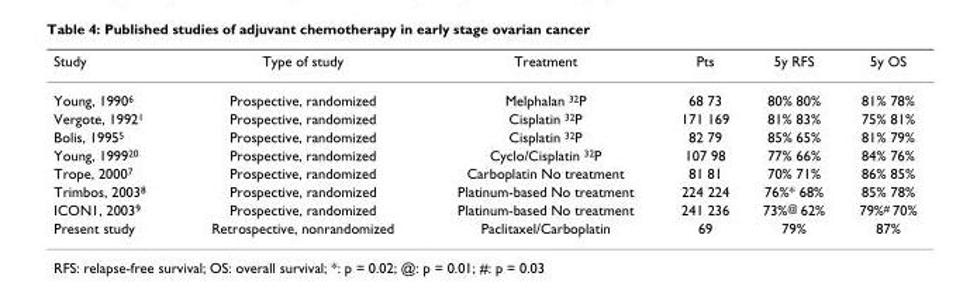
<table><thead><tr><td>Study</td><td>Type of study</td><td>Treatment</td><td>Pts</td><td>5y RFS</td><td>5y OS</td></tr></thead><tbody><tr><td>Young, 19906</td><td>Prospective, randomized</td><td>Melphalan 32P</td><td>68 73</td><td>80% 80%</td><td>81% 78%</td></tr><tr><td>Vergote, 19921</td><td>Prospective, randomized</td><td>Cisplatin 32P</td><td>171 169</td><td>81% 83%</td><td>75% 81%</td></tr><tr><td>Bolis, 19955</td><td>Prospective, randomized</td><td>Cisplatin 32P</td><td>82 79</td><td>85% 65%</td><td>81% 79%</td></tr><tr><td>Young, 199920</td><td>Prospective, randomized</td><td>Cyclo/Cisplatin 32P</td><td>107 98</td><td>77% 66%</td><td>84% 76%</td></tr><tr><td>Trope, 20007</td><td>Prospective, randomized</td><td>Carboplatin No treatment</td><td>81 81</td><td>70% 71%</td><td>86% 85%</td></tr><tr><td>Trimbos, 20038</td><td>Prospective, randomized</td><td>Platinum-based No treatment</td><td>224 224</td><td>76%* 68%</td><td>85% 78%</td></tr><tr><td>ICON1, 20039</td><td>Prospective, randomized</td><td>Platinum-based No treatment</td><td>241 236</td><td>73%@ 62%</td><td>79%# 70%</td></tr><tr><td>Present study</td><td>Retrospective, nonrandomized</td><td>Paclitaxel/Carboplatin</td><td>69</td><td>79%</td><td>87%</td></tr></tbody></table>